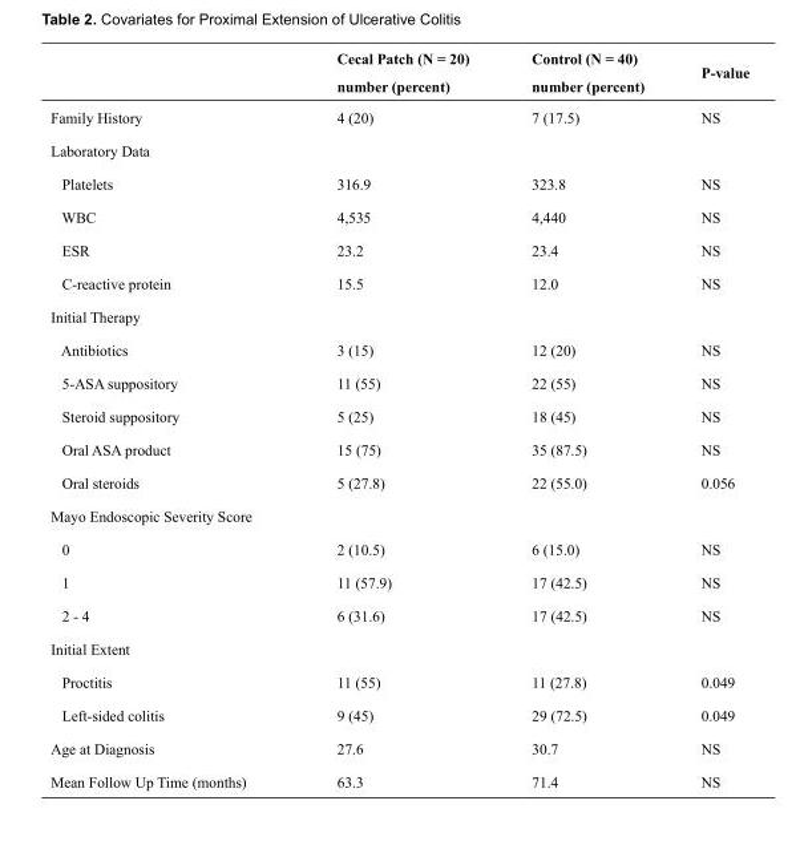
<table><thead><tr><td rowspan="2"></td><td rowspan="2">Cecal Patch (N = 20) number (percent)</td><td rowspan="2">Control (N = 40) number (percent)</td><td rowspan="2">P-value</td></tr><tr></tr></thead><tbody><tr><td>Family History</td><td>4 (20)</td><td>7 (17.5)</td><td>NS</td></tr><tr><td colspan="4">Laboratory Data</td></tr><tr><td>Platelets</td><td>316.9</td><td>323.8</td><td>NS</td></tr><tr><td>WBC</td><td>4,535</td><td>4,440</td><td>NS</td></tr><tr><td>ESR</td><td>23.2</td><td>23.4</td><td>NS</td></tr><tr><td>C-reactive protein</td><td>15.5</td><td>12.0</td><td>NS</td></tr><tr><td colspan="4">Initial Therapy</td></tr><tr><td>Antibiotics</td><td>3 (15)</td><td>12 (20)</td><td>NS</td></tr><tr><td>5-ASA suppository</td><td>11 (55)</td><td>22 (55)</td><td>NS</td></tr><tr><td>Steroid suppository</td><td>5 (25)</td><td>18 (45)</td><td>NS</td></tr><tr><td>Oral ASA product</td><td>15 (75)</td><td>35 (87.5)</td><td>NS</td></tr><tr><td>Oral steroids</td><td>5 (27.8)</td><td>22 (55.0)</td><td>0.056</td></tr><tr><td colspan="4">Mayo Endoscopic Severity Score</td></tr><tr><td>0</td><td>2 (10.5)</td><td>6 (15.0)</td><td>NS</td></tr><tr><td>1</td><td>11 (57.9)</td><td>17 (42.5)</td><td>NS</td></tr><tr><td>2 - 4</td><td>6 (31.6)</td><td>17 (42.5)</td><td>NS</td></tr><tr><td colspan="4">Initial Extent</td></tr><tr><td>Proctitis</td><td>11 (55)</td><td>11 (27.8)</td><td>0.049</td></tr><tr><td>Left-sided colitis</td><td>9 (45)</td><td>29 (72.5)</td><td>0.049</td></tr><tr><td>Age at Diagnosis</td><td>27.6</td><td>30.7</td><td>NS</td></tr><tr><td>Mean Follow Up Time (months)</td><td>63.3</td><td>71.4</td><td>NS</td></tr></tbody></table>